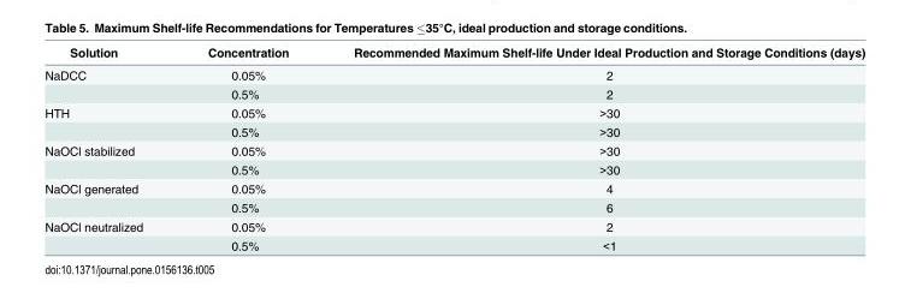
<table><thead><tr><td>Solution</td><td>Concentration</td><td>Recommended Maximum Shelf-life Under Ideal Production and Storage Conditions (days)</td></tr></thead><tbody><tr><td rowspan="2">NaDCC</td><td>0.05%</td><td>2</td></tr><tr><td>0.5%</td><td>2</td></tr><tr><td rowspan="2">HTH</td><td>0.05%</td><td>&gt;30</td></tr><tr><td>0.5%</td><td>&gt;30</td></tr><tr><td rowspan="2">NaOCl stabilized</td><td>0.05%</td><td>&gt;30</td></tr><tr><td>0.5%</td><td>&gt;30</td></tr><tr><td rowspan="2">NaOCl generated</td><td>0.05%</td><td>4</td></tr><tr><td>0.5%</td><td>6</td></tr><tr><td rowspan="2">NaOCl neutralized</td><td>0.05%</td><td>2</td></tr><tr><td>0.5%</td><td>&lt;1</td></tr></tbody></table>